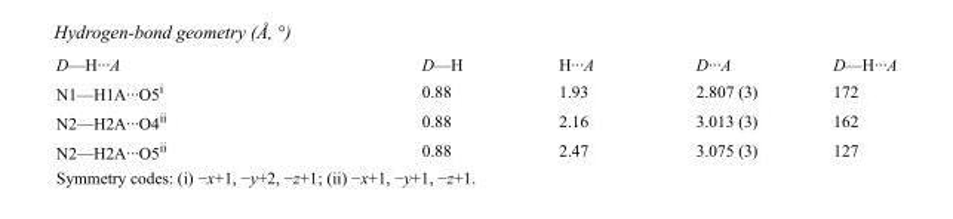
<table><tbody><tr><td>D—H···A</td><td>D—H</td><td>H···A</td><td>D···A</td><td>D—H···A</td></tr><tr><td>N1—H1A···O5<sup>i</sup></td><td>0.88</td><td>1.93</td><td>2.807 (3)</td><td>172</td></tr><tr><td>N2—H2A···O4<sup>ii</sup></td><td>0.88</td><td>2.16</td><td>3.013 (3)</td><td>162</td></tr><tr><td>N2—H2A···O5<sup>ii</sup></td><td>0.88</td><td>2.47</td><td>3.075 (3)</td><td>127</td></tr></tbody></table>